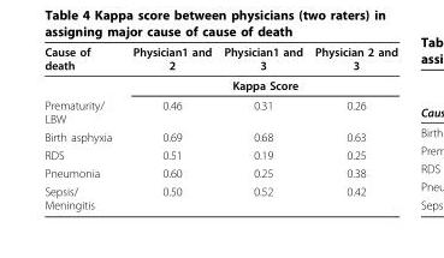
<table><thead><tr><td>Cause of death</td><td>Physician1 and 2</td><td>Physician1 and 3</td><td>Physician 2 and 3</td></tr></thead><tbody><tr><td></td><td colspan="3">Kappa Score</td></tr><tr><td>Prematurity/ LBW</td><td>0.46</td><td>0.31</td><td>0.26</td></tr><tr><td>Birth asphyxia</td><td>0.69</td><td>0.68</td><td>0.63</td></tr><tr><td>RDS</td><td>0.51</td><td>0.19</td><td>0.25</td></tr><tr><td>Pneumonia</td><td>0.60</td><td>0.25</td><td>0.38</td></tr><tr><td>Sepsis/ Meningitis</td><td>0.50</td><td>0.52</td><td>0.42</td></tr></tbody></table>